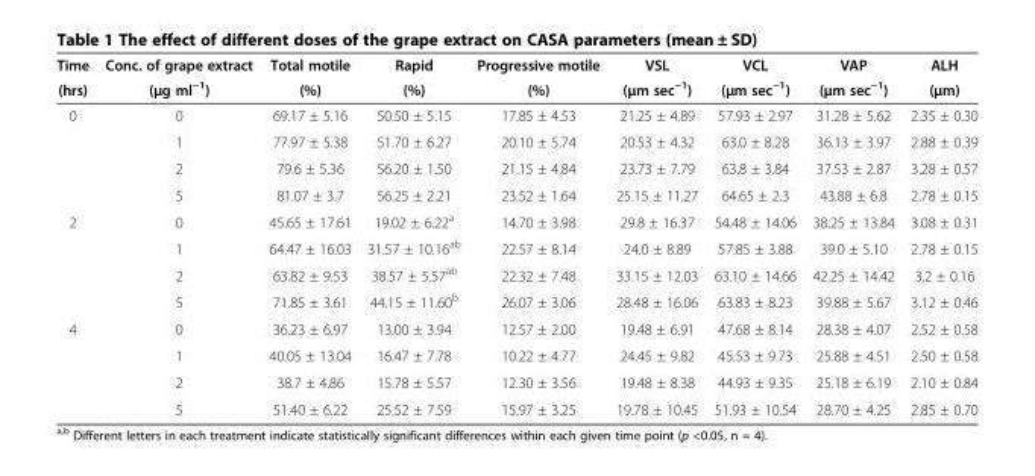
<table><thead><tr><td rowspan="2">Time (hrs)</td><td rowspan="2">Conc. of grape extract (μg ml<sup>−1</sup>)</td><td rowspan="2">Total motile (%)</td><td rowspan="2">Rapid (%)</td><td rowspan="2">Progressive motile (%)</td><td rowspan="2">VSL (μm sec<sup>−1</sup>)</td><td rowspan="2">VCL (μm sec<sup>−1</sup>)</td><td rowspan="2">VAP (μm sec<sup>−1</sup>)</td><td rowspan="2">ALH (μm)</td></tr><tr></tr></thead><tbody><tr><td rowspan="4">0</td><td>0</td><td>69.17 ± 5.16</td><td>50.50 ± 5.15</td><td>17.85 ± 4.53</td><td>21.25 ± 4.89</td><td>57.93 ± 2.97</td><td>31.28 ± 5.62</td><td>2.35 ± 0.30</td></tr><tr><td>1</td><td>77.97 ± 5.38</td><td>51.70 ± 6.27</td><td>20.10 ± 5.74</td><td>20.53 ± 4.32</td><td>63.0 ± 8.28</td><td>36.13 ± 3.97</td><td>2.88 ± 0.39</td></tr><tr><td>2</td><td>79.6 ± 5.36</td><td>56.20 ± 1.50</td><td>21.15 ± 4.84</td><td>23.73 ± 7.79</td><td>63.8 ± 3.84</td><td>37.53 ± 2.87</td><td>3.28 ± 0.57</td></tr><tr><td>5</td><td>81.07 ± 3.7</td><td>56.25 ± 2.21</td><td>23.52 ± 1.64</td><td>25.15 ± 11.27</td><td>64.65 ± 2.3</td><td>43.88 ± 6.8</td><td>2.78 ± 0.15</td></tr><tr><td rowspan="4">2</td><td>0</td><td>45.65 ± 17.61</td><td>19.02 ± 6.22<sup>a</sup></td><td>14.70 ± 3.98</td><td>29.8 ± 16.37</td><td>54.48 ± 14.06</td><td>38.25 ± 13.84</td><td>3.08 ± 0.31</td></tr><tr><td>1</td><td>64.47 ± 16.03</td><td>31.57 ± 10.16<sup>ab</sup></td><td>22.57 ± 8.14</td><td>24.0 ± 8.89</td><td>57.85 ± 3.88</td><td>39.0 ± 5.10</td><td>2.78 ± 0.15</td></tr><tr><td>2</td><td>63.82 ± 9.53</td><td>38.57 ± 5.57<sup>ab</sup></td><td>22.32 ± 7.48</td><td>33.15 ± 12.03</td><td>63.10 ± 14.66</td><td>42.25 ± 14.42</td><td>3.2 ± 0.16</td></tr><tr><td>5</td><td>71.85 ± 3.61</td><td>44.15 ± 11.60<sup>b</sup></td><td>26.07 ± 3.06</td><td>28.48 ± 16.06</td><td>63.83 ± 8.23</td><td>39.88 ± 5.67</td><td>3.12 ± 0.46</td></tr><tr><td rowspan="4">4</td><td>0</td><td>36.23 ± 6.97</td><td>13.00 ± 3.94</td><td>12.57 ± 2.00</td><td>19.48 ± 6.91</td><td>47.68 ± 8.14</td><td>28.38 ± 4.07</td><td>2.52 ± 0.58</td></tr><tr><td>1</td><td>40.05 ± 13.04</td><td>16.47 ± 7.78</td><td>10.22 ± 4.77</td><td>24.45 ± 9.82</td><td>45.53 ± 9.73</td><td>25.88 ± 4.51</td><td>2.50 ± 0.58</td></tr><tr><td>2</td><td>38.7 ± 4.86</td><td>15.78 ± 5.57</td><td>12.30 ± 3.56</td><td>19.48 ± 8.38</td><td>44.93 ± 9.35</td><td>25.18 ± 6.19</td><td>2.10 ± 0.84</td></tr><tr><td>5</td><td>51.40 ± 6.22</td><td>25.52 ± 7.59</td><td>15.97 ± 3.25</td><td>19.78 ± 10.45</td><td>51.93 ± 10.54</td><td>28.70 ± 4.25</td><td>2.85 ± 0.70</td></tr></tbody></table>